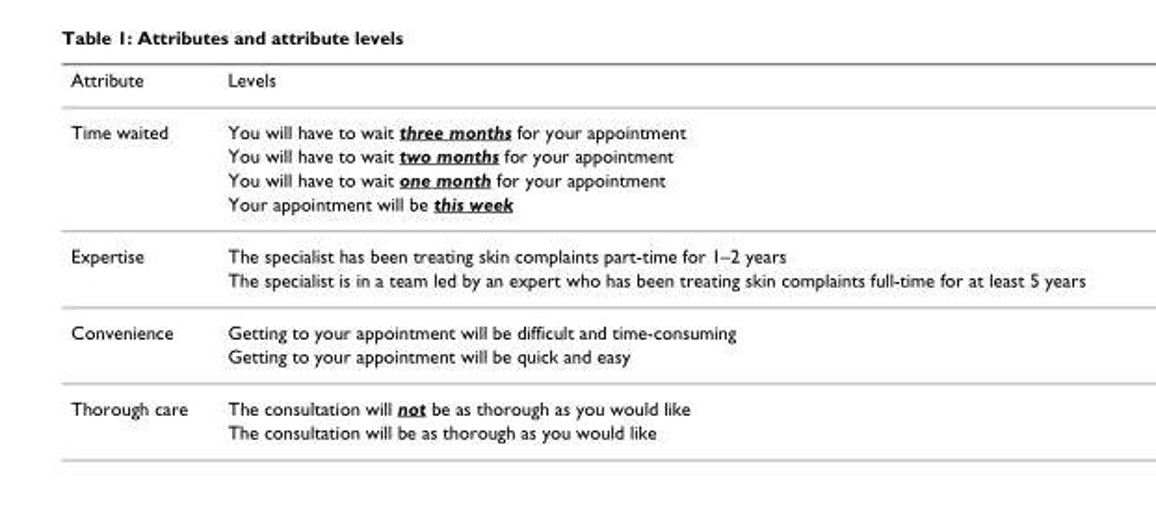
<table><thead><tr><td>Attribute</td><td>Levels</td></tr></thead><tbody><tr><td rowspan="4">Time waited</td><td>You will have to wait three months for your appointment</td></tr><tr><td>You will have to wait two months for your appointment</td></tr><tr><td>You will have to wait one month for your appointment</td></tr><tr><td>Your appointment will be this week</td></tr><tr><td rowspan="2">Expertise</td><td>The specialist has been treating skin complaints part-time for 1–2 years</td></tr><tr><td>The specialist is in a team led by an expert who has been treating skin complaints full-time for at least 5 years</td></tr><tr><td rowspan="2">Convenience</td><td>Getting to your appointment will be difficult and time-consuming</td></tr><tr><td>Getting to your appointment will be quick and easy</td></tr><tr><td rowspan="2">Thorough care</td><td>The consultation will not be as thorough as you would like</td></tr><tr><td>The consultation will be as thorough as you would like</td></tr></tbody></table>